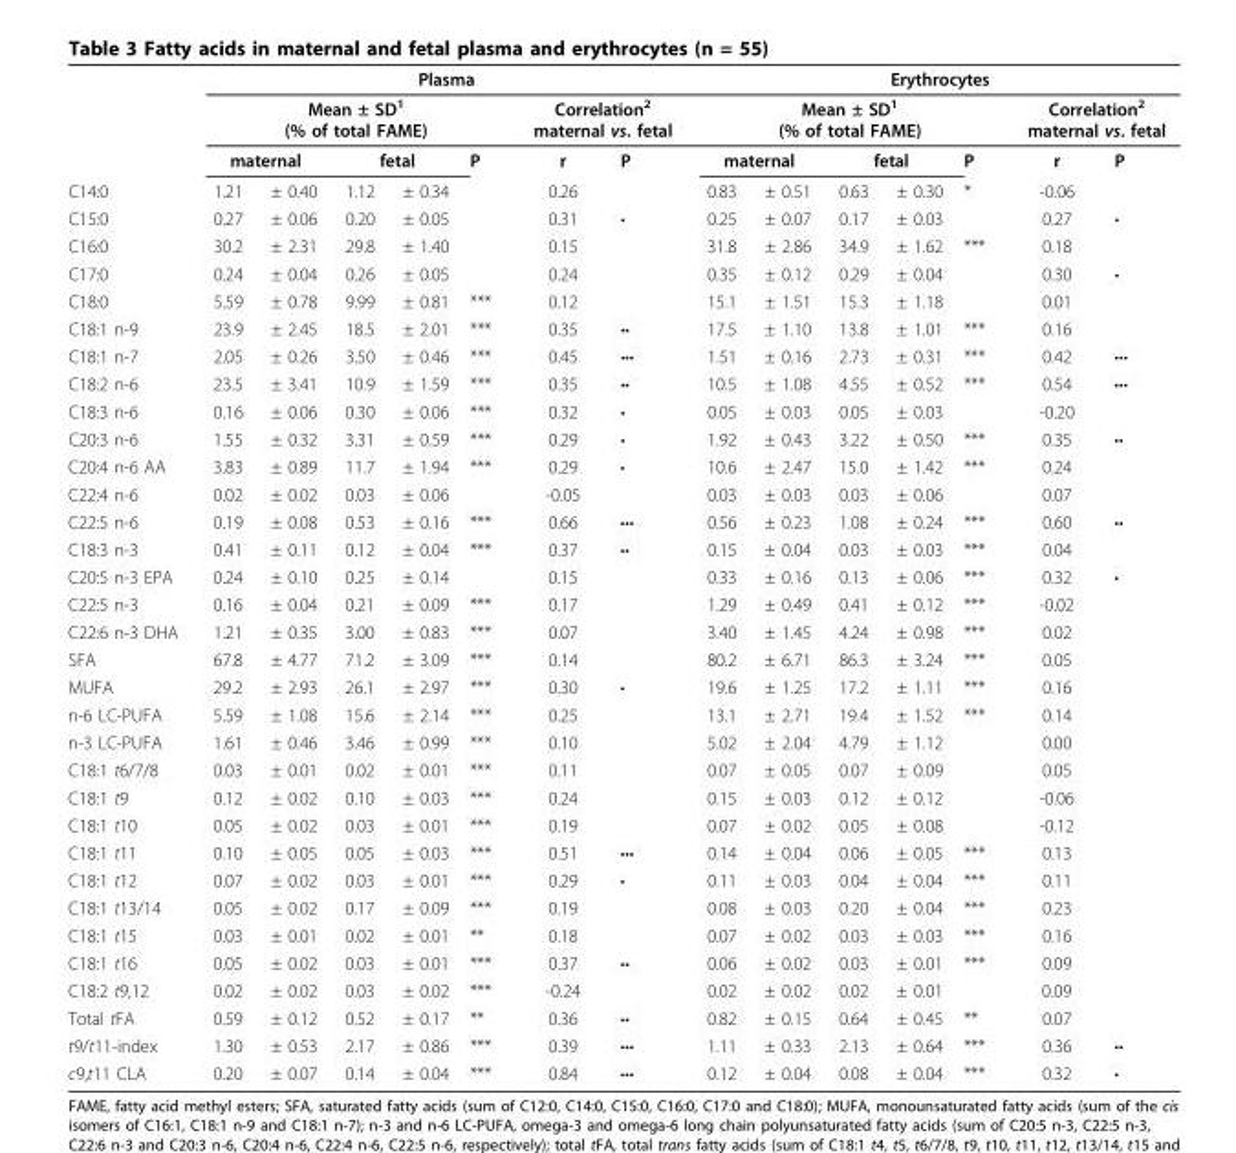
<table><thead><tr><td rowspan="4">C14:0</td><td colspan="7">Plasma</td><td colspan="7">Erythrocytes</td></tr><tr><td colspan="5">Mean ± SD<sup>1</sup> (% of total FAME)</td><td colspan="2">Correlation<sup>2</sup> maternal vs. fetal</td><td colspan="5">Mean ± SD<sup>1</sup> (% of total FAME)</td><td colspan="2">Correlation<sup>2</sup> maternal vs. fetal</td></tr><tr><td colspan="2">maternal</td><td colspan="2">fetal</td><td rowspan="2">P</td><td rowspan="2">r 0.26</td><td rowspan="2">P</td><td colspan="2">maternal</td><td colspan="2">fetal</td><td rowspan="2">P *</td><td rowspan="2">r -0.06</td><td rowspan="2">P</td></tr><tr><td>1.21</td><td>± 0.40</td><td>1.12</td><td>± 0.34</td><td>0.83</td><td>± 0.51</td><td>0.63</td><td>± 0.30</td></tr></thead><tbody><tr><td>C15:0</td><td>0.27</td><td>± 0.06</td><td>0.20</td><td>± 0.05</td><td></td><td>0.31</td><td>•</td><td>0.25</td><td>± 0.07</td><td>0.17</td><td>± 0.03</td><td></td><td>0.27</td><td>•</td></tr><tr><td>C16:0</td><td>30.2</td><td>± 2.31</td><td>29.8</td><td>± 1.40</td><td></td><td>0.15</td><td></td><td>31.8</td><td>± 2.86</td><td>34.9</td><td>± 1.62</td><td>***</td><td>0.18</td><td></td></tr><tr><td>C17:0</td><td>0.24</td><td>± 0.04</td><td>0.26</td><td>± 0.05</td><td></td><td>0.24</td><td></td><td>0.35</td><td>± 0.12</td><td>0.29</td><td>± 0.04</td><td></td><td>0.30</td><td>•</td></tr><tr><td>C18:0</td><td>5.59</td><td>± 0.78</td><td>9.99</td><td>± 0.81</td><td>***</td><td>0.12</td><td></td><td>15.1</td><td>± 1.51</td><td>15.3</td><td>± 1.18</td><td></td><td>0.01</td><td></td></tr><tr><td>C18:1 n-9</td><td>23.9</td><td>± 2.45</td><td>18.5</td><td>± 2.01</td><td>***</td><td>0.35</td><td>••</td><td>17.5</td><td>± 1.10</td><td>13.8</td><td>± 1.01</td><td>***</td><td>0.16</td><td></td></tr><tr><td>C18:1 n-7</td><td>2.05</td><td>± 0.26</td><td>3.50</td><td>± 0.46</td><td>***</td><td>0.45</td><td>•••</td><td>1.51</td><td>± 0.16</td><td>2.73</td><td>± 0.31</td><td>***</td><td>0.42</td><td>•••</td></tr><tr><td>C18:2 n-6</td><td>23.5</td><td>± 3.41</td><td>10.9</td><td>± 1.59</td><td>***</td><td>0.35</td><td>••</td><td>10.5</td><td>± 1.08</td><td>4.55</td><td>± 0.52</td><td>***</td><td>0.54</td><td>•••</td></tr><tr><td>C18:3 n-6</td><td>0.16</td><td>± 0.06</td><td>0.30</td><td>± 0.06</td><td>***</td><td>0.32</td><td>•</td><td>0.05</td><td>± 0.03</td><td>0.05</td><td>± 0.03</td><td></td><td>-0.20</td><td></td></tr><tr><td>C20:3 n-6</td><td>1.55</td><td>± 0.32</td><td>3.31</td><td>± 0.59</td><td>***</td><td>0.29</td><td>•</td><td>1.92</td><td>± 0.43</td><td>3.22</td><td>± 0.50</td><td>***</td><td>0.35</td><td>••</td></tr><tr><td>C20:4 n-6 AA</td><td>3.83</td><td>± 0.89</td><td>11.7</td><td>± 1.94</td><td>***</td><td>0.29</td><td>•</td><td>10.6</td><td>± 2.47</td><td>15.0</td><td>± 1.42</td><td>***</td><td>0.24</td><td></td></tr><tr><td>C22:4 n-6</td><td>0.02</td><td>± 0.02</td><td>0.03</td><td>± 0.06</td><td></td><td>-0.05</td><td></td><td>0.03</td><td>± 0.03</td><td>0.03</td><td>± 0.06</td><td></td><td>0.07</td><td></td></tr><tr><td>C22:5 n-6</td><td>0.19</td><td>± 0.08</td><td>0.53</td><td>± 0.16</td><td>***</td><td>0.66</td><td>•••</td><td>0.56</td><td>± 0.23</td><td>1.08</td><td>± 0.24</td><td>***</td><td>0.60</td><td>••</td></tr><tr><td>C18:3 n-3</td><td>0.41</td><td>± 0.11</td><td>0.12</td><td>± 0.04</td><td>***</td><td>0.37</td><td>••</td><td>0.15</td><td>± 0.04</td><td>0.03</td><td>± 0.03</td><td>***</td><td>0.04</td><td></td></tr><tr><td>C20:5 n-3 EPA</td><td>0.24</td><td>± 0.10</td><td>0.25</td><td>± 0.14</td><td></td><td>0.15</td><td></td><td>0.33</td><td>± 0.16</td><td>0.13</td><td>± 0.06</td><td>***</td><td>0.32</td><td>•</td></tr><tr><td>C22:5 n-3</td><td>0.16</td><td>± 0.04</td><td>0.21</td><td>± 0.09</td><td>***</td><td>0.17</td><td></td><td>1.29</td><td>± 0.49</td><td>0.41</td><td>± 0.12</td><td>***</td><td>-0.02</td><td></td></tr><tr><td>C22:6 n-3 DHA</td><td>1.21</td><td>± 0.35</td><td>3.00</td><td>± 0.83</td><td>***</td><td>0.07</td><td></td><td>3.40</td><td>± 1.45</td><td>4.24</td><td>± 0.98</td><td>***</td><td>0.02</td><td></td></tr><tr><td>SFA</td><td>67.8</td><td>± 4.77</td><td>71.2</td><td>± 3.09</td><td>***</td><td>0.14</td><td></td><td>80.2</td><td>± 6.71</td><td>86.3</td><td>± 3.24</td><td>***</td><td>0.05</td><td></td></tr><tr><td>MUFA</td><td>29.2</td><td>± 2.93</td><td>26.1</td><td>± 2.97</td><td>***</td><td>0.30</td><td>•</td><td>19.6</td><td>± 1.25</td><td>17.2</td><td>± 1.11</td><td>***</td><td>0.16</td><td></td></tr><tr><td>n-6 LC-PUFA</td><td>5.59</td><td>± 1.08</td><td>15.6</td><td>± 2.14</td><td>***</td><td>0.25</td><td></td><td>13.1</td><td>± 2.71</td><td>19.4</td><td>± 1.52</td><td>***</td><td>0.14</td><td></td></tr><tr><td>n-3 LC-PUFA</td><td>1.61</td><td>± 0.46</td><td>3.46</td><td>± 0.99</td><td>***</td><td>0.10</td><td></td><td>5.02</td><td>± 2.04</td><td>4.79</td><td>± 1.12</td><td></td><td>0.00</td><td></td></tr><tr><td>C18:1 t6/7/8</td><td>0.03</td><td>± 0.01</td><td>0.02</td><td>± 0.01</td><td>***</td><td>0.11</td><td></td><td>0.07</td><td>± 0.05</td><td>0.07</td><td>± 0.09</td><td></td><td>0.05</td><td></td></tr><tr><td>C18:1 t9</td><td>0.12</td><td>± 0.02</td><td>0.10</td><td>± 0.03</td><td>***</td><td>0.24</td><td></td><td>0.15</td><td>± 0.03</td><td>0.12</td><td>± 0.12</td><td></td><td>-0.06</td><td></td></tr><tr><td>C18:1 t10</td><td>0.05</td><td>± 0.02</td><td>0.03</td><td>± 0.01</td><td>***</td><td>0.19</td><td></td><td>0.07</td><td>± 0.02</td><td>0.05</td><td>± 0.08</td><td></td><td>-0.12</td><td></td></tr><tr><td>C18:1 t11</td><td>0.10</td><td>± 0.05</td><td>0.05</td><td>± 0.03</td><td>***</td><td>0.51</td><td>•••</td><td>0.14</td><td>± 0.04</td><td>0.06</td><td>± 0.05</td><td>***</td><td>0.13</td><td></td></tr><tr><td>C18:1 t12</td><td>0.07</td><td>± 0.02</td><td>0.03</td><td>± 0.01</td><td>***</td><td>0.29</td><td>•</td><td>0.11</td><td>± 0.03</td><td>0.04</td><td>± 0.04</td><td>***</td><td>0.11</td><td></td></tr><tr><td>C18:1 t13/14</td><td>0.05</td><td>± 0.02</td><td>0.17</td><td>± 0.09</td><td>***</td><td>0.19</td><td></td><td>0.08</td><td>± 0.03</td><td>0.20</td><td>± 0.04</td><td>***</td><td>0.23</td><td></td></tr><tr><td>C18:1 t15</td><td>0.03</td><td>± 0.01</td><td>0.02</td><td>± 0.01</td><td>**</td><td>0.18</td><td></td><td>0.07</td><td>± 0.02</td><td>0.03</td><td>± 0.03</td><td>***</td><td>0.16</td><td></td></tr><tr><td>C18:1 t16</td><td>0.05</td><td>± 0.02</td><td>0.03</td><td>± 0.01</td><td>***</td><td>0.37</td><td>••</td><td>0.06</td><td>± 0.02</td><td>0.03</td><td>± 0.01</td><td>***</td><td>0.09</td><td></td></tr><tr><td>C18:2 t9,12</td><td>0.02</td><td>± 0.02</td><td>0.03</td><td>± 0.02</td><td>***</td><td>-0.24</td><td></td><td>0.02</td><td>± 0.02</td><td>0.02</td><td>± 0.01</td><td></td><td>0.09</td><td></td></tr><tr><td>Total tFA</td><td>0.59</td><td>± 0.12</td><td>0.52</td><td>± 0.17</td><td>**</td><td>0.36</td><td>••</td><td>0.82</td><td>± 0.15</td><td>0.64</td><td>± 0.45</td><td>**</td><td>0.07</td><td></td></tr><tr><td>t9/t11-index</td><td>1.30</td><td>± 0.53</td><td>2.17</td><td>± 0.86</td><td>***</td><td>0.39</td><td>•••</td><td>1.11</td><td>± 0.33</td><td>2.13</td><td>± 0.64</td><td>***</td><td>0.36</td><td>••</td></tr><tr><td>c9,t11 CLA</td><td>0.20</td><td>± 0.07</td><td>0.14</td><td>± 0.04</td><td>***</td><td>0.84</td><td>•••</td><td>0.12</td><td>± 0.04</td><td>0.08</td><td>± 0.04</td><td>***</td><td>0.32</td><td>•</td></tr></tbody></table>